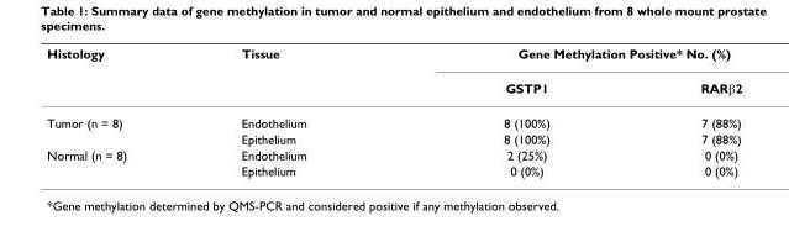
<table><thead><tr><td rowspan="2">Histology</td><td rowspan="2">Tissue</td><td colspan="2">Gene Methylation Positive* No. (%)</td></tr><tr><td>GSTP1</td><td>RARβ2</td></tr></thead><tbody><tr><td rowspan="2">Tumor (n = 8)</td><td>Endothelium</td><td>8 (100%)</td><td>7 (88%)</td></tr><tr><td>Epithelium</td><td>8 (100%)</td><td>7 (88%)</td></tr><tr><td rowspan="2">Normal (n = 8)</td><td>Endothelium</td><td>2 (25%)</td><td>0 (0%)</td></tr><tr><td>Epithelium</td><td>0 (0%)</td><td>0 (0%)</td></tr></tbody></table>